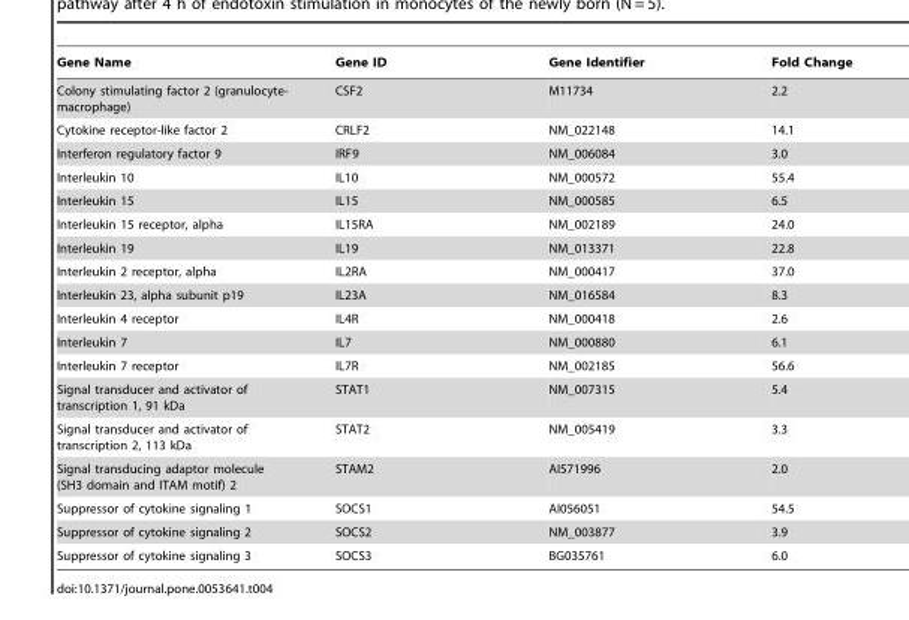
<table><thead><tr><td>Gene Name</td><td>Gene ID</td><td>Gene Identifier</td><td>Fold Change</td></tr></thead><tbody><tr><td>Colony stimulating factor 2 (granulocyte- macrophage)</td><td>CSF2</td><td>M11734</td><td>2.2</td></tr><tr><td>Cytokine receptor-like factor 2</td><td>CRLF2</td><td>NM_022148</td><td>14.1</td></tr><tr><td>Interferon regulatory factor 9</td><td>IRF9</td><td>NM_006084</td><td>3.0</td></tr><tr><td>Interleukin 10</td><td>IL10</td><td>NM_000572</td><td>55.4</td></tr><tr><td>Interleukin 15</td><td>IL15</td><td>NM_000585</td><td>6.5</td></tr><tr><td>Interleukin 15 receptor, alpha</td><td>IL15RA</td><td>NM_002189</td><td>24.0</td></tr><tr><td>Interleukin 19</td><td>IL19</td><td>NM_013371</td><td>22.8</td></tr><tr><td>Interleukin 2 receptor, alpha</td><td>IL2RA</td><td>NM_000417</td><td>37.0</td></tr><tr><td>Interleukin 23, alpha subunit p19</td><td>IL23A</td><td>NM_016584</td><td>8.3</td></tr><tr><td>Interleukin 4 receptor</td><td>IL4R</td><td>NM_000418</td><td>2.6</td></tr><tr><td>Interleukin 7</td><td>IL7</td><td>NM_000880</td><td>6.1</td></tr><tr><td>Interleukin 7 receptor</td><td>IL7R</td><td>NM_002185</td><td>56.6</td></tr><tr><td>Signal transducer and activator of transcription 1, 91 kDa</td><td>STAT1</td><td>NM_007315</td><td>5.4</td></tr><tr><td>Signal transducer and activator of transcription 2, 113 kDa</td><td>STAT2</td><td>NM_005419</td><td>3.3</td></tr><tr><td>Signal transducing adaptor molecule (SH3 domain and ITAM motif) 2</td><td>STAM2</td><td>AI571996</td><td>2.0</td></tr><tr><td>Suppressor of cytokine signaling 1</td><td>SOCS1</td><td>AI056051</td><td>54.5</td></tr><tr><td>Suppressor of cytokine signaling 2</td><td>SOCS2</td><td>NM_003877</td><td>3.9</td></tr><tr><td>Suppressor of cytokine signaling 3</td><td>SOCS3</td><td>BG035761</td><td>6.0</td></tr></tbody></table>